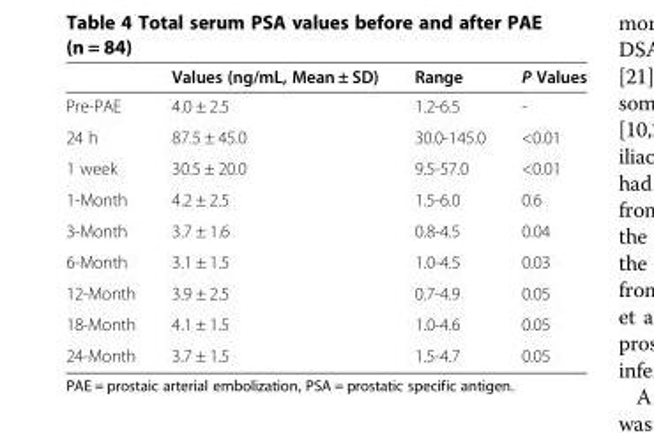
<table><thead><tr><td></td><td>Values (ng/mL, Mean ± SD)</td><td>Range</td><td>P Values</td></tr></thead><tbody><tr><td>Pre-PAE</td><td>4.0 ± 2.5</td><td>1.2-6.5</td><td>-</td></tr><tr><td>24 h</td><td>87.5 ± 45.0</td><td>30.0-145.0</td><td>&lt;0.01</td></tr><tr><td>1 week</td><td>30.5 ± 20.0</td><td>9.5-57.0</td><td>&lt;0.01</td></tr><tr><td>1-Month</td><td>4.2 ± 2.5</td><td>1.5-6.0</td><td>0.6</td></tr><tr><td>3-Month</td><td>3.7 ± 1.6</td><td>0.8-4.5</td><td>0.04</td></tr><tr><td>6-Month</td><td>3.1 ± 1.5</td><td>1.0-4.5</td><td>0.03</td></tr><tr><td>12-Month</td><td>3.9 ± 2.5</td><td>0.7-4.9</td><td>0.05</td></tr><tr><td>18-Month</td><td>4.1 ± 1.5</td><td>1.0-4.6</td><td>0.05</td></tr><tr><td>24-Month</td><td>3.7 ± 1.5</td><td>1.5-4.7</td><td>0.05</td></tr></tbody></table>